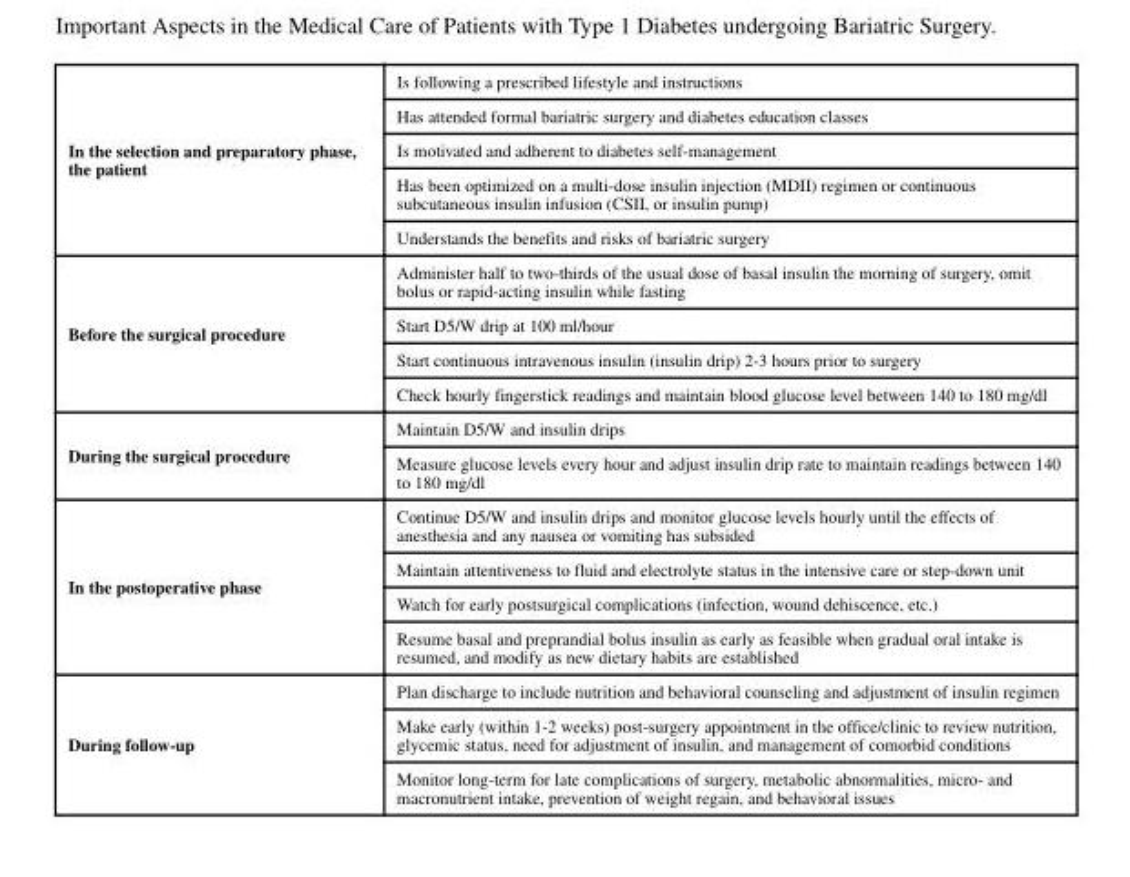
<table><tbody><tr><td rowspan="5">In the selection and preparatory phase, the patient</td><td>Is following a prescribed lifestyle and instructions</td></tr><tr><td>Has attended formal bariatric surgery and diabetes education classes</td></tr><tr><td>Is motivated and adherent to diabetes self-management</td></tr><tr><td>Has been optimized on a multi-dose insulin injection (MDII) regimen or continuous subcutaneous insulin infusion (CSII, or insulin pump)</td></tr><tr><td>Understands the benefits and risks of bariatric surgery</td></tr><tr><td rowspan="4">Before the surgical procedure</td><td>Administer half to two-thirds of the usual dose of basal insulin the morning of surgery, omit bolus or rapid-acting insulin while fasting</td></tr><tr><td>Start D5/W drip at 100 ml/hour</td></tr><tr><td>Start continuous intravenous insulin (insulin drip) 2-3 hours prior to surgery</td></tr><tr><td>Check hourly fingerstick readings and maintain blood glucose level between 140 to 180 mg/dl</td></tr><tr><td rowspan="2">During the surgical procedure</td><td>Maintain D5/W and insulin drips</td></tr><tr><td>Measure glucose levels every hour and adjust insulin drip rate to maintain readings between 140 to 180 mg/dl</td></tr><tr><td rowspan="4">In the postoperative phase</td><td>Continue D5/W and insulin drips and monitor glucose levels hourly until the effects of anesthesia and any nausea or vomiting has subsided</td></tr><tr><td>Maintain attentiveness to fluid and electrolyte status in the intensive care or step-down unit</td></tr><tr><td>Watch for early postsurgical complications (infection, wound dehiscence, etc.)</td></tr><tr><td>Resume basal and preprandial bolus insulin as early as feasible when gradual oral intake is resumed, and modify as new dietary habits are established</td></tr><tr><td rowspan="3">During follow-up</td><td>Plan discharge to include nutrition and behavioral counseling and adjustment of insulin regimen</td></tr><tr><td>Make early (within 1-2 weeks) post-surgery appointment in the office/clinic to review nutrition, glycemic status, need for adjustment of insulin, and management of comorbid conditions</td></tr><tr><td>Monitor long-term for late complications of surgery, metabolic abnormalities, micro- and macronutrient intake, prevention of weight regain, and behavioral issues</td></tr></tbody></table>